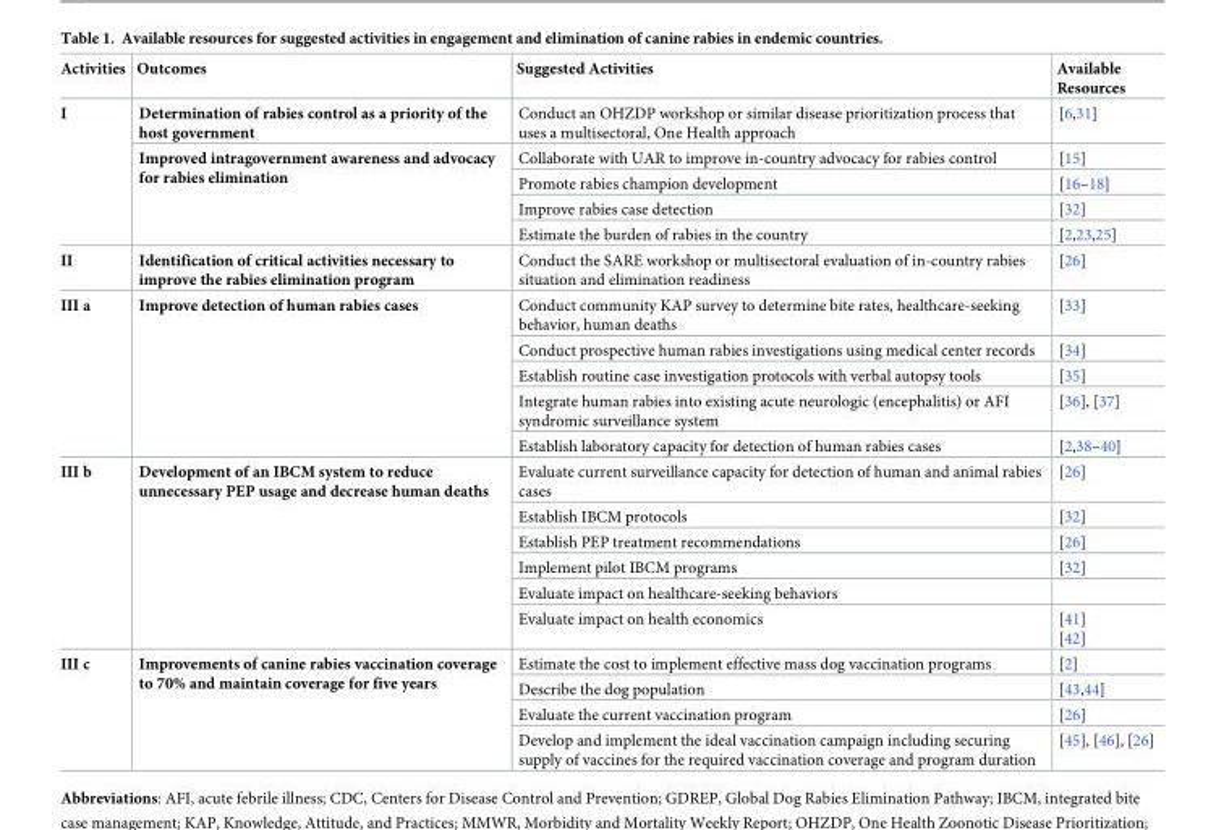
<table><thead><tr><td>Activities</td><td>Outcomes</td><td>Suggested Activities</td><td>Available Resources</td></tr></thead><tbody><tr><td rowspan="5">I</td><td>Determination of rabies control as a priority of the host government</td><td>Conduct an OHZDP workshop or similar disease prioritization process that uses a multisectoral, One Health approach</td><td>[6,31]</td></tr><tr><td rowspan="4">Improved intragovernment awareness and advocacy for rabies elimination</td><td>Collaborate with UAR to improve in-country advocacy for rabies control</td><td>[15]</td></tr><tr><td>Promote rabies champion development</td><td>[16–18]</td></tr><tr><td>Improve rabies case detection</td><td>[32]</td></tr><tr><td>Estimate the burden of rabies in the country</td><td>[2,23,25]</td></tr><tr><td>II</td><td>Identification of critical activities necessary to improve the rabies elimination program</td><td>Conduct the SARE workshop or multisectoral evaluation of in-country rabies situation and elimination readiness</td><td>[26]</td></tr><tr><td rowspan="5">III a</td><td rowspan="5">Improve detection of human rabies cases</td><td>Conduct community KAP survey to determine bite rates, healthcare-seeking behavior, human deaths</td><td>[33]</td></tr><tr><td>Conduct prospective human rabies investigations using medical center records</td><td>[34]</td></tr><tr><td>Establish routine case investigation protocols with verbal autopsy tools</td><td>[35]</td></tr><tr><td>Integrate human rabies into existing acute neurologic (encephalitis) or AFI syndromic surveillance system</td><td>[36], [37]</td></tr><tr><td>Establish laboratory capacity for detection of human rabies cases</td><td>[2,38–40]</td></tr><tr><td rowspan="6">III b</td><td rowspan="6">Development of an IBCM system to reduce unnecessary PEP usage and decrease human deaths</td><td>Evaluate current surveillance capacity for detection of human and animal rabies cases</td><td>[26]</td></tr><tr><td>Establish IBCM protocols</td><td>[32]</td></tr><tr><td>Establish PEP treatment recommendations</td><td>[26]</td></tr><tr><td>Implement pilot IBCM programs</td><td>[32]</td></tr><tr><td>Evaluate impact on healthcare-seeking behaviors</td><td></td></tr><tr><td>Evaluate impact on health economics</td><td>[41] [42]</td></tr><tr><td rowspan="4">III c</td><td rowspan="4">Improvements of canine rabies vaccination coverage to 70% and maintain coverage for five years</td><td>Estimate the cost to implement effective mass dog vaccination programs</td><td>[2]</td></tr><tr><td>Describe the dog population</td><td>[43,44]</td></tr><tr><td>Evaluate the current vaccination program</td><td>[26]</td></tr><tr><td>Develop and implement the ideal vaccination campaign including securing supply of vaccines for the required vaccination coverage and program duration</td><td>[45], [46], [26]</td></tr></tbody></table>